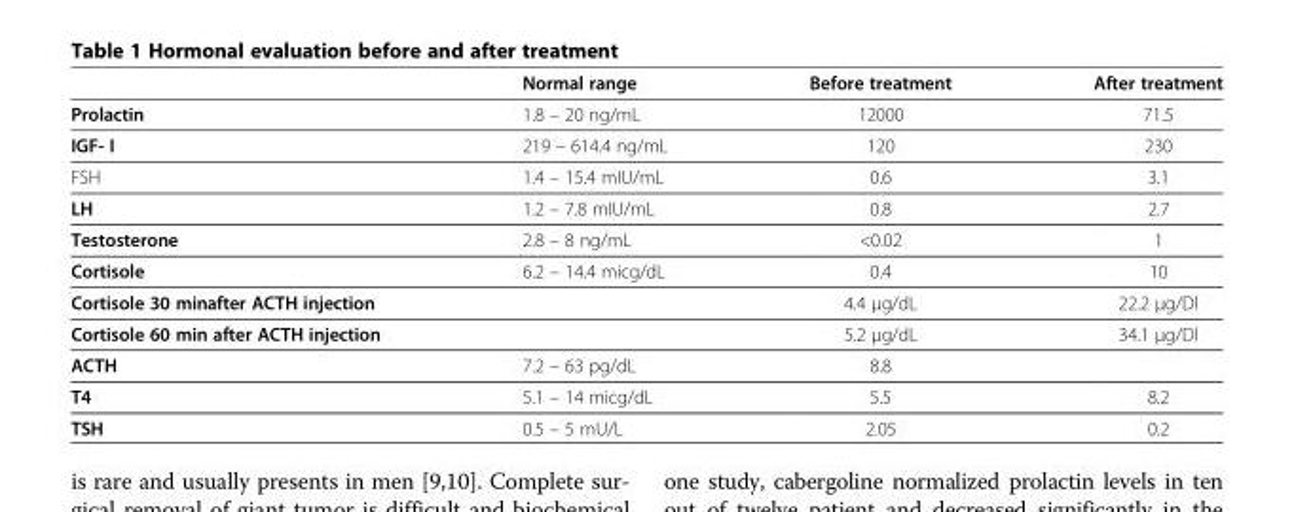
<table><thead><tr><td></td><td>Normal range</td><td>Before treatment</td><td>After treatment</td></tr></thead><tbody><tr><td>Prolactin</td><td>1.8 – 20 ng/mL</td><td>12000</td><td>71.5</td></tr><tr><td>IGF- I</td><td>219 – 614.4 ng/mL</td><td>120</td><td>230</td></tr><tr><td>FSH</td><td>1.4 – 15.4 mIU/mL</td><td>0.6</td><td>3.1</td></tr><tr><td>LH</td><td>1.2 – 7.8 mIU/mL</td><td>0.8</td><td>2.7</td></tr><tr><td>Testosterone</td><td>2.8 – 8 ng/mL</td><td>&lt;0.02</td><td>1</td></tr><tr><td>Cortisole</td><td>6.2 – 14.4 micg/dL</td><td>0.4</td><td>10</td></tr><tr><td>Cortisole 30 minafter ACTH injection</td><td></td><td>4.4 μg/dL</td><td>22.2 μg/Dl</td></tr><tr><td>Cortisole 60 min after ACTH injection</td><td></td><td>5.2 μg/dL</td><td>34.1 μg/Dl</td></tr><tr><td>ACTH</td><td>7.2 – 63 pg/dL</td><td>8.8</td><td></td></tr><tr><td>T4</td><td>5.1 – 14 micg/dL</td><td>5.5</td><td>8.2</td></tr><tr><td>TSH</td><td>0.5 – 5 mU/L</td><td>2.05</td><td>0.2</td></tr></tbody></table>